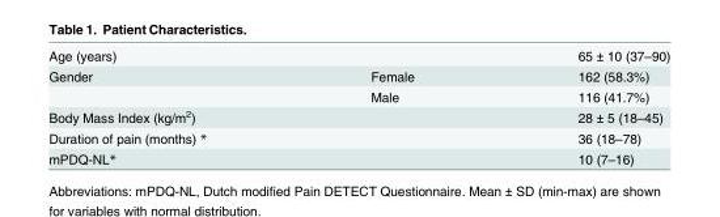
<table><tbody><tr><td>Age (years)</td><td></td><td>65 ± 10 (37–90)</td></tr><tr><td rowspan="2">Gender</td><td>Female</td><td>162 (58.3%)</td></tr><tr><td>Male</td><td>116 (41.7%)</td></tr><tr><td>Body Mass Index (kg/m<sup>2</sup>)</td><td></td><td>28 ± 5 (18–45)</td></tr><tr><td>Duration of pain (months) *</td><td></td><td>36 (18–78)</td></tr><tr><td>mPDQ-NL*</td><td></td><td>10 (7–16)</td></tr></tbody></table>